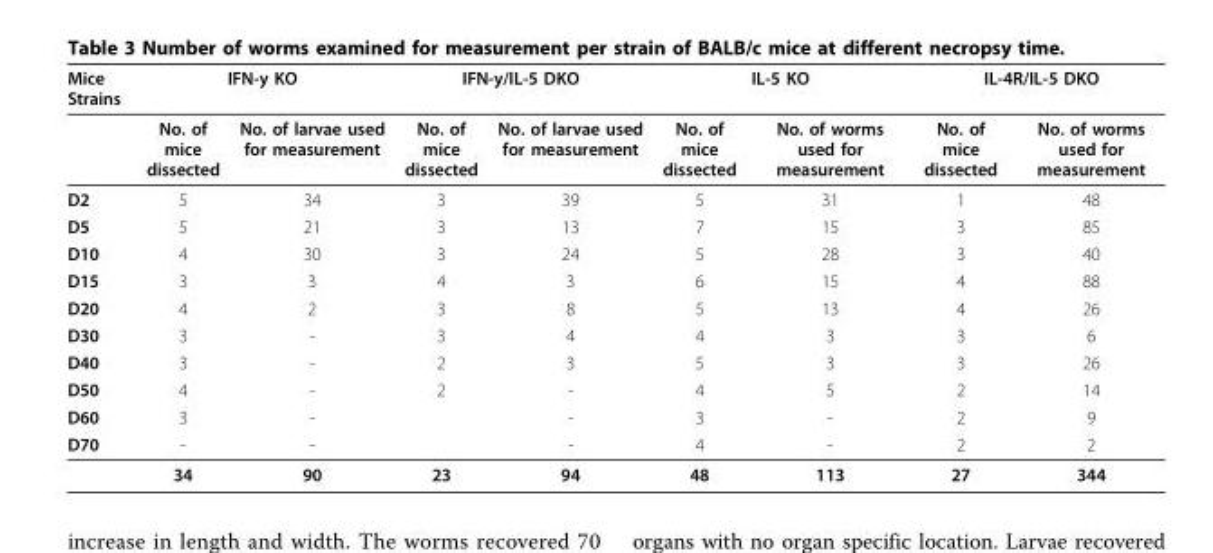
<table><thead><tr><td rowspan="2">Mice Strains</td><td colspan="2">IFN-y KO</td><td colspan="2">IFN-y/IL-5 DKO</td><td colspan="2">IL-5 KO</td><td colspan="2">IL-4R/IL-5 DKO</td></tr><tr><td>No. of mice dissected</td><td>No. of larvae used for measurement</td><td>No. of mice dissected</td><td>No. of larvae used for measurement</td><td>No. of mice dissected</td><td>No. of worms used for measurement</td><td>No. of mice dissected</td><td>No. of worms used for measurement</td></tr></thead><tbody><tr><td>D2</td><td>5</td><td>34</td><td>3</td><td>39</td><td>5</td><td>31</td><td>1</td><td>48</td></tr><tr><td>D5</td><td>5</td><td>21</td><td>3</td><td>13</td><td>7</td><td>15</td><td>3</td><td>85</td></tr><tr><td>D10</td><td>4</td><td>30</td><td>3</td><td>24</td><td>5</td><td>28</td><td>3</td><td>40</td></tr><tr><td>D15</td><td>3</td><td>3</td><td>4</td><td>3</td><td>6</td><td>15</td><td>4</td><td>88</td></tr><tr><td>D20</td><td>4</td><td>2</td><td>3</td><td>8</td><td>5</td><td>13</td><td>4</td><td>26</td></tr><tr><td>D30</td><td>3</td><td>-</td><td>3</td><td>4</td><td>4</td><td>3</td><td>3</td><td>6</td></tr><tr><td>D40</td><td>3</td><td>-</td><td>2</td><td>3</td><td>5</td><td>3</td><td>3</td><td>26</td></tr><tr><td>D50</td><td>4</td><td>-</td><td>2</td><td>-</td><td>4</td><td>5</td><td>2</td><td>14</td></tr><tr><td>D60</td><td>3</td><td>-</td><td></td><td>-</td><td>3</td><td>-</td><td>2</td><td>9</td></tr><tr><td rowspan="2">D70</td><td>-</td><td>-</td><td></td><td>-</td><td>4</td><td>-</td><td>2</td><td>2</td></tr><tr><td>34</td><td>90</td><td>23</td><td>94</td><td>48</td><td>113</td><td>27</td><td>344</td></tr></tbody></table>